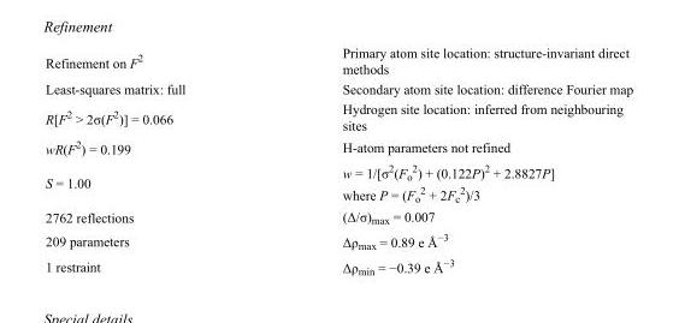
<table><tbody><tr><td>Refinement on F<sup>2</sup></td><td>Primary atom site location: structure-invariant direct methods</td></tr><tr><td>Least-squares matrix: full</td><td>Secondary atom site location: difference Fourier map</td></tr><tr><td>R[F<sup>2</sup> &gt; 2σ(F<sup>2</sup>)] = 0.066</td><td>Hydrogen site location: inferred from neighbouring sites</td></tr><tr><td>wR(F<sup>2</sup>) = 0.199</td><td>H-atom parameters not refined</td></tr><tr><td>S = 1.00</td><td>w = 1/[σ<sup>2</sup>(F<sub>o</sub> <sup>2</sup>) + (0.122P)<sup>2</sup> + 2.8827P] where P = (F<sub>o</sub> <sup>2</sup> + 2F<sub>c</sub> <sup>2</sup>)/3</td></tr><tr><td>2762 reflections</td><td>(Δ/σ)<sub>max</sub> = 0.007</td></tr><tr><td>209 parameters</td><td>Δρ<sub>max</sub> = 0.89 e Å<sup>−3</sup></td></tr><tr><td>1 restraint</td><td>Δρ<sub>min</sub> = −0.39 e Å<sup>−3</sup></td></tr></tbody></table>